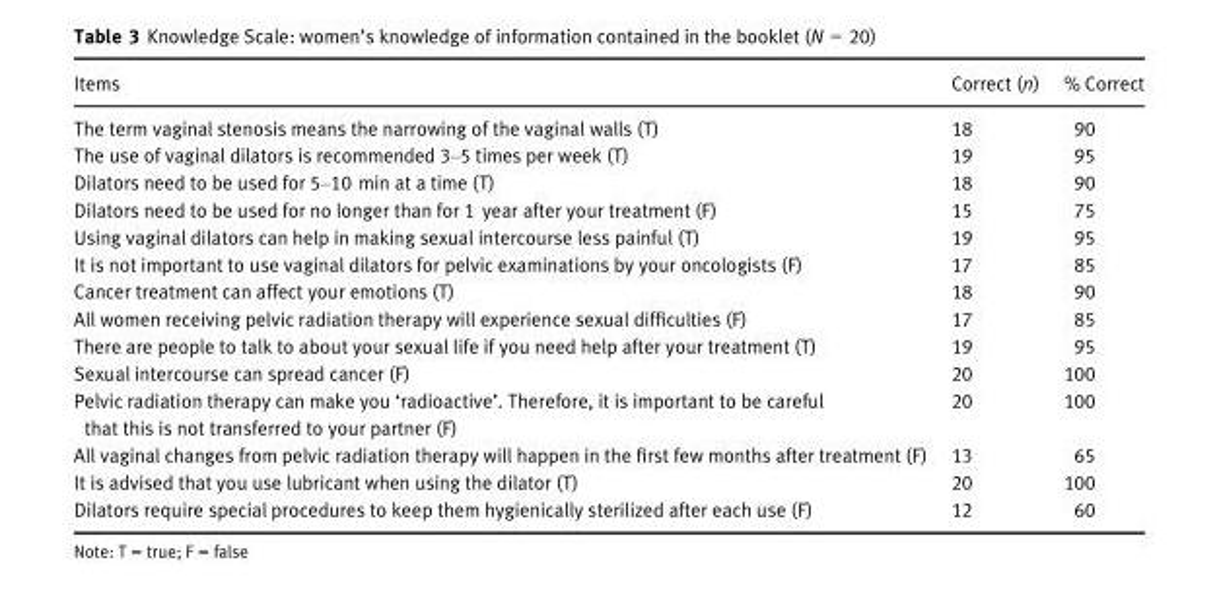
<table><thead><tr><td>Items</td><td>Correct (n)</td><td>% Correct</td></tr></thead><tbody><tr><td>The term vaginal stenosis means the narrowing of the vaginal walls (T)</td><td>18</td><td>90</td></tr><tr><td>The use of vaginal dilators is recommended 3–5 times per week (T)</td><td>19</td><td>95</td></tr><tr><td>Dilators need to be used for 5–10 min at a time (T)</td><td>18</td><td>90</td></tr><tr><td>Dilators need to be used for no longer than for 1 year after your treatment (F)</td><td>15</td><td>75</td></tr><tr><td>Using vaginal dilators can help in making sexual intercourse less painful (T)</td><td>19</td><td>95</td></tr><tr><td>It is not important to use vaginal dilators for pelvic examinations by your oncologists (F)</td><td>17</td><td>85</td></tr><tr><td>Cancer treatment can affect your emotions (T)</td><td>18</td><td>90</td></tr><tr><td>All women receiving pelvic radiation therapy will experience sexual difficulties (F)</td><td>17</td><td>85</td></tr><tr><td>There are people to talk to about your sexual life if you need help after your treatment (T)</td><td>19</td><td>95</td></tr><tr><td>Sexual intercourse can spread cancer (F)</td><td>20</td><td>100</td></tr><tr><td>Pelvic radiation therapy can make you ‘radioactive’. Therefore, it is important to be careful that this is not transferred to your partner (F)</td><td>20</td><td>100</td></tr><tr><td>All vaginal changes from pelvic radiation therapy will happen in the first few months after treatment (F)</td><td>13</td><td>65</td></tr><tr><td>It is advised that you use lubricant when using the dilator (T)</td><td>20</td><td>100</td></tr><tr><td>Dilators require special procedures to keep them hygienically sterilized after each use (F)</td><td>12</td><td>60</td></tr></tbody></table>